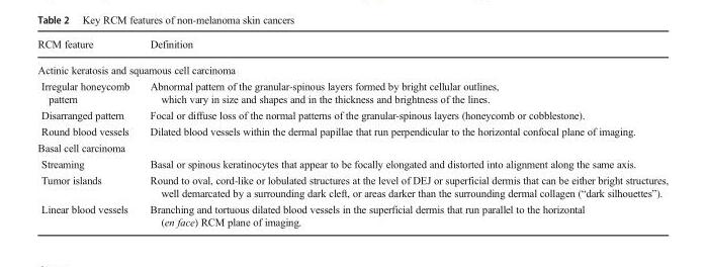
<table><thead><tr><td>RCM feature</td><td>Definition</td></tr></thead><tbody><tr><td colspan="2">Actinic keratosis and squamous cell carcinoma</td></tr><tr><td>Irregular honeycomb pattern</td><td>Abnormal pattern of the granular-spinous layers formed by bright cellular outlines, which vary in size and shapes and in the thickness and brightness of the lines.</td></tr><tr><td>Disarranged pattern</td><td>Focal or diffuse loss of the normal patterns of the granular-spinous layers (honeycomb or cobblestone).</td></tr><tr><td>Round blood vessels</td><td>Dilated blood vessels within the dermal papillae that run perpendicular to the horizontal confocal plane of imaging.</td></tr><tr><td colspan="2">Basal cell carcinoma</td></tr><tr><td>Streaming</td><td>Basal or spinous keratinocytes that appear to be focally elongated and distorted into alignment along the same axis.</td></tr><tr><td>Tumor islands</td><td>Round to oval, cord-like or lobulated structures at the level of DEJ or superficial dermis that can be either bright structures, well demarcated by a surrounding dark cleft, or areas darker than the surrounding dermal collagen (“dark silhouettes”).</td></tr><tr><td>Linear blood vessels</td><td>Branching and tortuous dilated blood vessels in the superficial dermis that run parallel to the horizontal (en face) RCM plane of imaging.</td></tr></tbody></table>